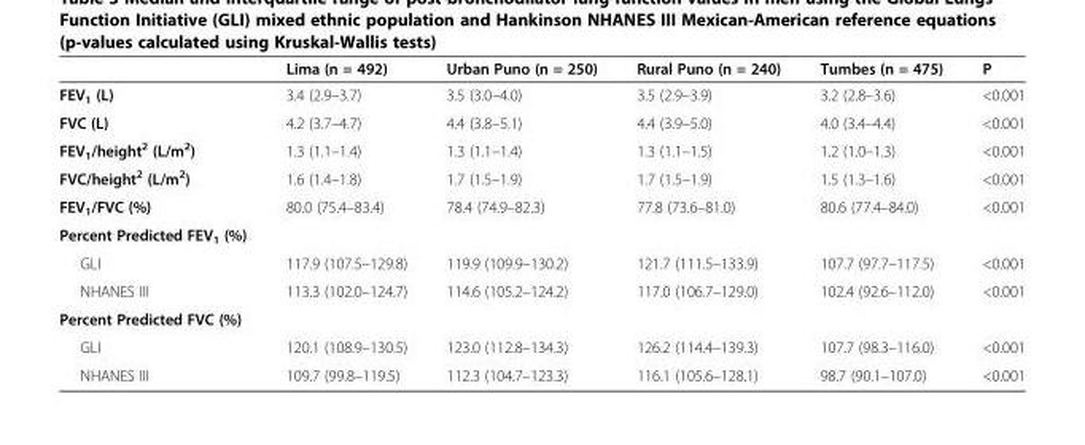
<table><thead><tr><td></td><td>Lima (n = 492)</td><td>Urban Puno (n = 250)</td><td>Rural Puno (n = 240)</td><td>Tumbes (n = 475)</td><td>P</td></tr></thead><tbody><tr><td>FEV<sub>1</sub> (L)</td><td>3.4 (2.9–3.7)</td><td>3.5 (3.0–4.0)</td><td>3.5 (2.9–3.9)</td><td>3.2 (2.8–3.6)</td><td>&lt;0.001</td></tr><tr><td>FVC (L)</td><td>4.2 (3.7–4.7)</td><td>4.4 (3.8–5.1)</td><td>4.4 (3.9–5.0)</td><td>4.0 (3.4–4.4)</td><td>&lt;0.001</td></tr><tr><td>FEV<sub>1</sub>/height<sup>2</sup> (L/m<sup>2</sup>)</td><td>1.3 (1.1–1.4)</td><td>1.3 (1.1–1.4)</td><td>1.3 (1.1–1.5)</td><td>1.2 (1.0–1.3)</td><td>&lt;0.001</td></tr><tr><td>FVC/height<sup>2</sup> (L/m<sup>2</sup>)</td><td>1.6 (1.4–1.8)</td><td>1.7 (1.5–1.9)</td><td>1.7 (1.5–1.9)</td><td>1.5 (1.3–1.6)</td><td>&lt;0.001</td></tr><tr><td>FEV<sub>1</sub>/FVC (%)</td><td>80.0 (75.4–83.4)</td><td>78.4 (74.9–82.3)</td><td>77.8 (73.6–81.0)</td><td>80.6 (77.4–84.0)</td><td>&lt;0.001</td></tr><tr><td colspan="6">Percent Predicted FEV<sub>1</sub> (%)</td></tr><tr><td>GLI</td><td>117.9 (107.5–129.8)</td><td>119.9 (109.9–130.2)</td><td>121.7 (111.5–133.9)</td><td>107.7 (97.7–117.5)</td><td>&lt;0.001</td></tr><tr><td>NHANES III</td><td>113.3 (102.0–124.7)</td><td>114.6 (105.2–124.2)</td><td>117.0 (106.7–129.0)</td><td>102.4 (92.6–112.0)</td><td>&lt;0.001</td></tr><tr><td colspan="6">Percent Predicted FVC (%)</td></tr><tr><td>GLI</td><td>120.1 (108.9–130.5)</td><td>123.0 (112.8–134.3)</td><td>126.2 (114.4–139.3)</td><td>107.7 (98.3–116.0)</td><td>&lt;0.001</td></tr><tr><td>NHANES III</td><td>109.7 (99.8–119.5)</td><td>112.3 (104.7–123.3)</td><td>116.1 (105.6–128.1)</td><td>98.7 (90.1–107.0)</td><td>&lt;0.001</td></tr></tbody></table>